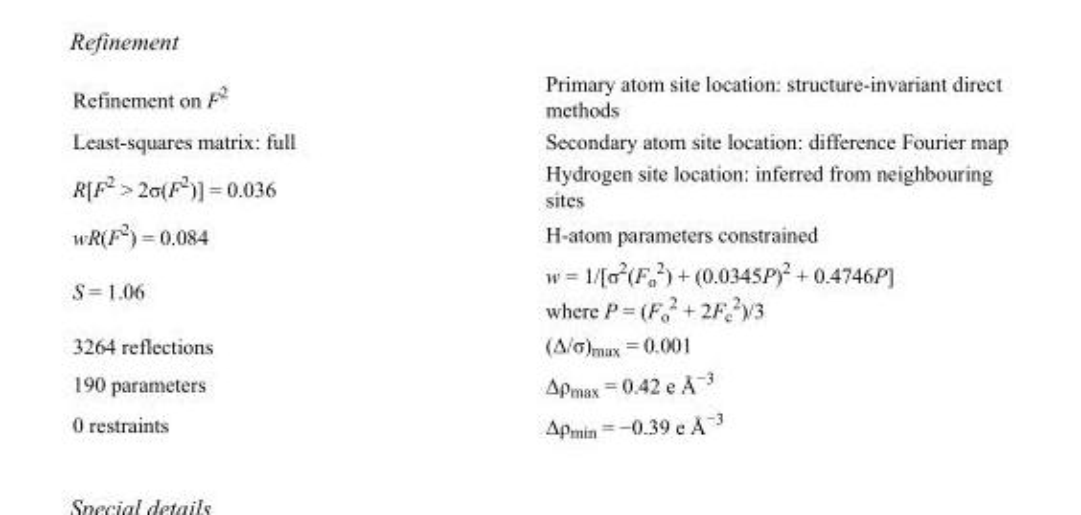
<table><tbody><tr><td>Refinement on F<sup>2</sup></td><td>Primary atom site location: structure-invariant direct methods</td></tr><tr><td>Least-squares matrix: full</td><td>Secondary atom site location: difference Fourier map</td></tr><tr><td>R[F<sup>2</sup> &gt; 2σ(F<sup>2</sup>)] = 0.036</td><td>Hydrogen site location: inferred from neighbouring sites</td></tr><tr><td>wR(F<sup>2</sup>) = 0.084</td><td>H-atom parameters constrained</td></tr><tr><td>S = 1.06</td><td>w = 1/[σ<sup>2</sup>(F<sub>o</sub> <sup>2</sup>) + (0.0345P)<sup>2</sup> + 0.4746P] where P = (F<sub>o</sub> <sup>2</sup> + 2F<sub>c</sub> <sup>2</sup>)/3</td></tr><tr><td>3264 reflections</td><td>(Δ/σ)<sub>max</sub> = 0.001</td></tr><tr><td>190 parameters</td><td>Δρ<sub>max</sub> = 0.42 e Å<sup>−3</sup></td></tr><tr><td>0 restraints</td><td>Δρ<sub>min</sub> = −0.39 e Å<sup>−3</sup></td></tr></tbody></table>